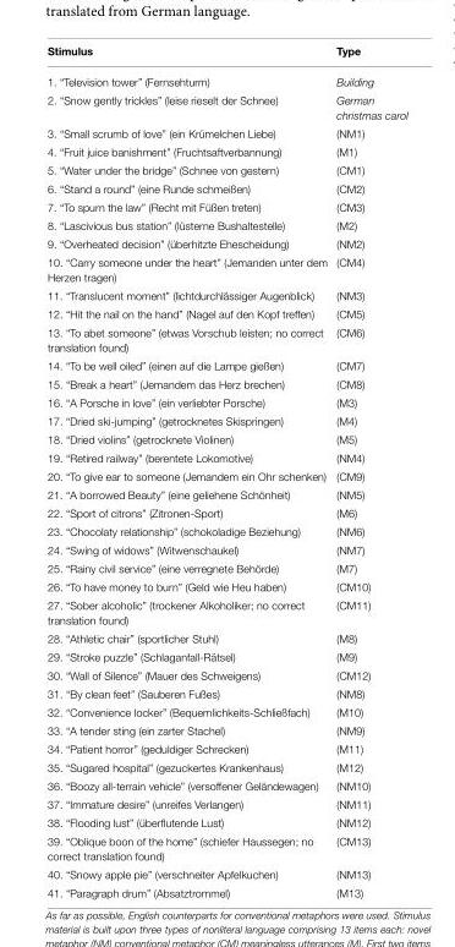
<table><thead><tr><td>Stimulus</td><td>Type</td></tr></thead><tbody><tr><td>1. “Television tower” (Fernsehturm)</td><td>Building</td></tr><tr><td>2. “Snow gently trickles” (leise rieselt der Schnee)</td><td>German christmas carol</td></tr><tr><td>3. “Small scrumb of love” (ein Krümelchen Liebe)</td><td>(NM1)</td></tr><tr><td>4. “Fruit juice banishment” (Fruchtsaftverbannung)</td><td>(M1)</td></tr><tr><td>5. “Water under the bridge” (Schnee von gestern)</td><td>(CM1)</td></tr><tr><td>6. “Stand a round” (eine Runde schmeißen)</td><td>(CM2)</td></tr><tr><td>7. “To spurn the law” (Recht mit Füßen treten)</td><td>(CM3)</td></tr><tr><td>8. “Lascivious bus station” (lüsterne Bushaltestelle)</td><td>(M2)</td></tr><tr><td>9. “Overheated decision” (überhitzte Ehescheidung)</td><td>(NM2)</td></tr><tr><td>10. “Carry someone under the heart” (Jemanden unter dem Herzen tragen)</td><td>(CM4)</td></tr><tr><td>11. “Translucent moment” (lichtdurchlässiger Augenblick)</td><td>(NM3)</td></tr><tr><td>12. “Hit the nail on the hand” (Nagel auf den Kopf treffen)</td><td>(CM5)</td></tr><tr><td>13. “To abet someone” (etwas Vorschub leisten; no correct translation found)</td><td>(CM6)</td></tr><tr><td>14. “To be well oiled” (einen auf die Lampe gießen)</td><td>(CM7)</td></tr><tr><td>15. “Break a heart” (Jemandem das Herz brechen)</td><td>(CM8)</td></tr><tr><td>16. “A Porsche in love” (ein verliebter Porsche)</td><td>(M3)</td></tr><tr><td>17. “Dried ski-jumping” (getrocknetes Skispringen)</td><td>(M4)</td></tr><tr><td>18. “Dried violins” (getrocknete Violinen)</td><td>(M5)</td></tr><tr><td>19. “Retired railway” (berentete Lokomotive)</td><td>(NM4)</td></tr><tr><td>20. “To give ear to someone (Jemandem ein Ohr schenken)</td><td>(CM9)</td></tr><tr><td>21. “A borrowed Beauty” (eine geliehene Schönheit)</td><td>(NM5)</td></tr><tr><td>22. “Sport of citrons” (Zitronen-Sport)</td><td>(M6)</td></tr><tr><td>23. “Chocolaty relationship” (schokoladige Beziehung)</td><td>(NM6)</td></tr><tr><td>24. “Swing of widows” (Witwenschaukel)</td><td>(NM7)</td></tr><tr><td>25. “Rainy civil service” (eine verregnete Behörde)</td><td>(M7)</td></tr><tr><td>26. “To have money to burn” (Geld wie Heu haben)</td><td>(CM10)</td></tr><tr><td>27. “Sober alcoholic” (trockener Alkoholiker; no correct translation found)</td><td>(CM11)</td></tr><tr><td>28. “Athletic chair” (sportlicher Stuhl)</td><td>(M8)</td></tr><tr><td>29. “Stroke puzzle” (Schlaganfall-Rätsel)</td><td>(M9)</td></tr><tr><td>30. “Wall of Silence” (Mauer des Schweigens)</td><td>(CM12)</td></tr><tr><td>31. “By clean feet” (Sauberen Fußes)</td><td>(NM8)</td></tr><tr><td>32. “Convenience locker” (Bequemlichkeits-Schließfach)</td><td>(M10)</td></tr><tr><td>33. “A tender sting (ein zarter Stachel)</td><td>(NM9)</td></tr><tr><td>34. “Patient horror” (geduldiger Schrecken)</td><td>(M11)</td></tr><tr><td>35. “Sugared hospital” (gezuckertes Krankenhaus)</td><td>(M12)</td></tr><tr><td>36. “Boozy all-terrain vehicle” (versoffener Geländewagen)</td><td>(NM10)</td></tr><tr><td>37. “Immature desire” (unreifes Verlangen)</td><td>(NM11)</td></tr><tr><td>38. “Flooding lust” (überflutende Lust)</td><td>(NM12)</td></tr><tr><td>39. “Oblique boon of the home” (schiefer Haussegen; no correct translation found)</td><td>(CM13)</td></tr><tr><td>40. “Snowy apple pie” (verschneiter Apfelkuchen)</td><td>(NM13)</td></tr><tr><td>41. “Paragraph drum” (Absatztrommel)</td><td>(M13)</td></tr></tbody></table>